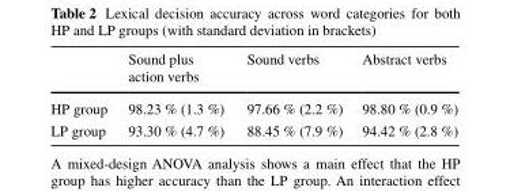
<table><thead><tr><td></td><td>Sound plus action verbs</td><td>Sound verbs</td><td>Abstract verbs</td></tr></thead><tbody><tr><td>HP group</td><td>98.23 % (1.3 %)</td><td>97.66 % (2.2 %)</td><td>98.80 % (0.9 %)</td></tr><tr><td>LP group</td><td>93.30 % (4.7 %)</td><td>88.45 % (7.9 %)</td><td>94.42 % (2.8 %)</td></tr></tbody></table>